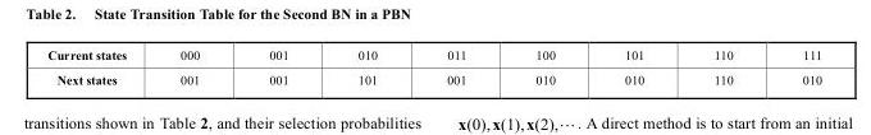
<table><tbody><tr><td>Current states</td><td>000</td><td>001</td><td>010</td><td>011</td><td>100</td><td>101</td><td>110</td><td>111</td></tr><tr><td>Next states</td><td>001</td><td>001</td><td>101</td><td>001</td><td>010</td><td>010</td><td>110</td><td>010</td></tr></tbody></table>